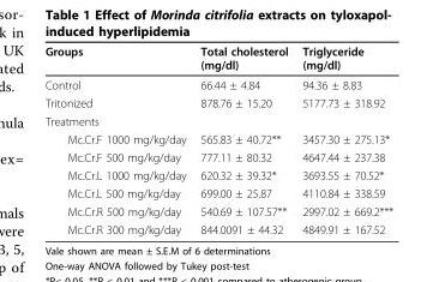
<table><thead><tr><td>Groups</td><td>Total cholesterol (mg/dl)</td><td>Triglyceride (mg/dl)</td></tr></thead><tbody><tr><td>Control</td><td>66.44 ± 4.84</td><td>94.36 ± 8.83</td></tr><tr><td>Tritonized</td><td>878.76 ± 15.20</td><td>5177.73 ± 318.92</td></tr><tr><td colspan="3">Treatments</td></tr><tr><td>Mc.Cr.F 1000 mg/kg/day</td><td>565.83 ± 40.72**</td><td>3457.30 ± 275.13*</td></tr><tr><td>Mc.Cr.F 500 mg/kg/day</td><td>777.11 ± 80.32</td><td>4647.44 ± 237.38</td></tr><tr><td>Mc.Cr.L 1000 mg/kg/day</td><td>620.32 ± 39.32*</td><td>3693.55 ± 70.52*</td></tr><tr><td>Mc.Cr.L 500 mg/kg/day</td><td>699.00 ± 25.87</td><td>4110.84 ± 338.59</td></tr><tr><td>Mc.Cr.R 500 mg/kg/day</td><td>540.69 ± 107.57**</td><td>2997.02 ± 669.2***</td></tr><tr><td>Mc.Cr.R 300 mg/kg/day</td><td>844.0091 ± 44.32</td><td>4849.91 ± 167.52</td></tr></tbody></table>